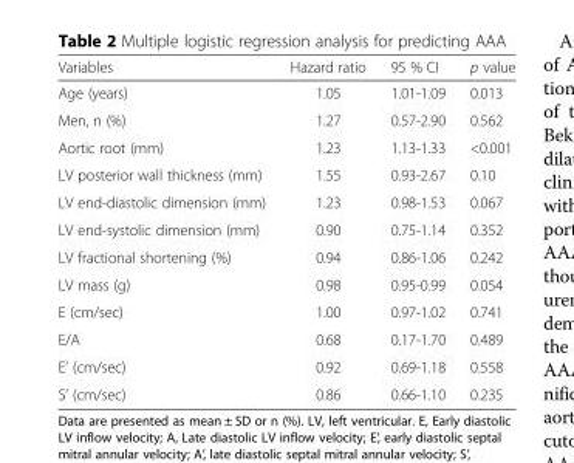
<table><thead><tr><td>Variables</td><td>Hazard ratio</td><td>95 % CI</td><td>p value</td></tr></thead><tbody><tr><td>Age (years)</td><td>1.05</td><td>1.01-1.09</td><td>0.013</td></tr><tr><td>Men, n (%)</td><td>1.27</td><td>0.57-2.90</td><td>0.562</td></tr><tr><td>Aortic root (mm)</td><td>1.23</td><td>1.13-1.33</td><td>&lt;0.001</td></tr><tr><td>LV posterior wall thickness (mm)</td><td>1.55</td><td>0.93-2.67</td><td>0.10</td></tr><tr><td>LV end-diastolic dimension (mm)</td><td>1.23</td><td>0.98-1.53</td><td>0.067</td></tr><tr><td>LV end-systolic dimension (mm)</td><td>0.90</td><td>0.75-1.14</td><td>0.352</td></tr><tr><td>LV fractional shortening (%)</td><td>0.94</td><td>0.86-1.06</td><td>0.242</td></tr><tr><td>LV mass (g)</td><td>0.98</td><td>0.95-0.99</td><td>0.054</td></tr><tr><td>E (cm/sec)</td><td>1.00</td><td>0.97-1.02</td><td>0.741</td></tr><tr><td>E/A</td><td>0.68</td><td>0.17-1.70</td><td>0.489</td></tr><tr><td>E’ (cm/sec)</td><td>0.92</td><td>0.69-1.18</td><td>0.558</td></tr><tr><td>S’ (cm/sec)</td><td>0.86</td><td>0.66-1.10</td><td>0.235</td></tr></tbody></table>